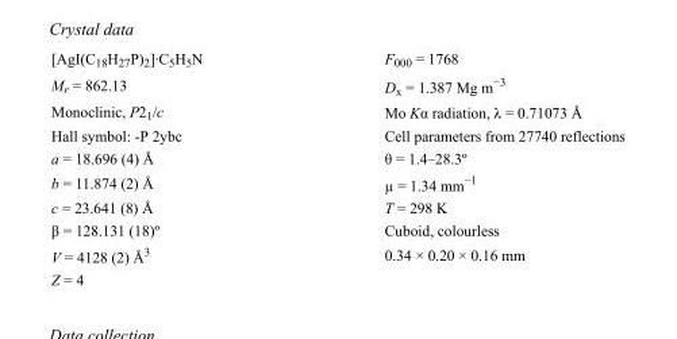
<table><tbody><tr><td>[AgI(C<sub>18</sub>H<sub>27</sub>P)<sub>2</sub>]·C<sub>5</sub>H<sub>5</sub>N</td><td>F000 = 1768</td></tr><tr><td>M<sub>r</sub> = 862.13</td><td>D<sub>x</sub> = 1.387 Mg m<sup>−3</sup></td></tr><tr><td>Monoclinic, P2<sub>1</sub>/c</td><td>Mo Kα radiation, λ = 0.71073 Å</td></tr><tr><td>Hall symbol: -P 2ybc</td><td>Cell parameters from 27740 reflections</td></tr><tr><td>a = 18.696 (4) Å</td><td>θ = 1.4–28.3º</td></tr><tr><td>b = 11.874 (2) Å</td><td>µ = 1.34 mm<sup>−1</sup></td></tr><tr><td>c = 23.641 (8) Å</td><td>T = 298 K</td></tr><tr><td>β = 128.131 (18)º</td><td>Cuboid, colourless</td></tr><tr><td>V = 4128 (2) Å<sup>3</sup></td><td>0.34 × 0.20 × 0.16 mm</td></tr><tr><td>Z = 4</td><td></td></tr></tbody></table>